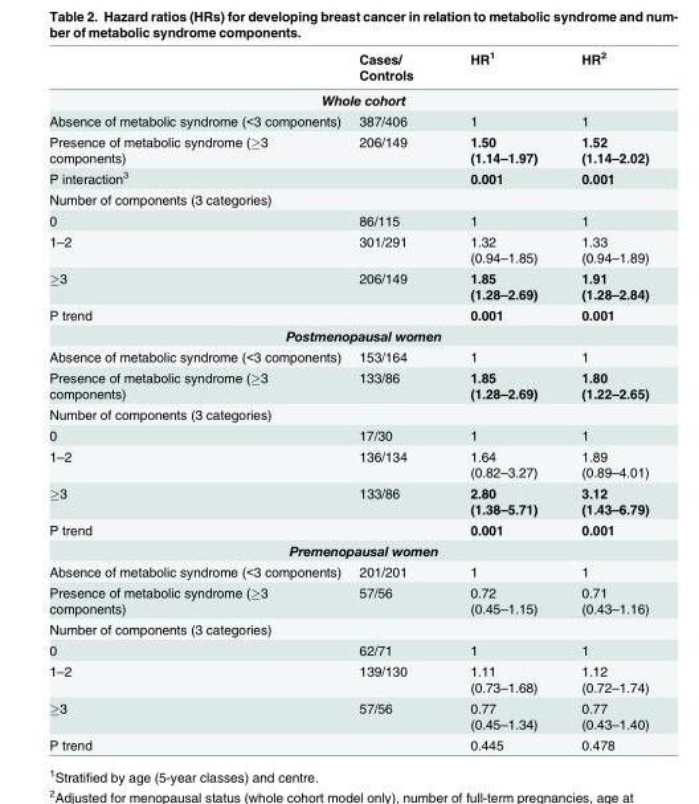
<table><thead><tr><td></td><td>Cases/ Controls</td><td>HR<sup>1</sup></td><td>HR<sup>2</sup></td></tr></thead><tbody><tr><td colspan="4">Whole cohort</td></tr><tr><td>Absence of metabolic syndrome (&lt;3 components)</td><td>387/406</td><td>1</td><td>1</td></tr><tr><td>Presence of metabolic syndrome (≥3 components)</td><td>206/149</td><td>1.50 (1.14–1.97)</td><td>1.52 (1.14–2.02)</td></tr><tr><td>P interaction<sup>3</sup></td><td></td><td>0.001</td><td>0.001</td></tr><tr><td colspan="4">Number of components (3 categories)</td></tr><tr><td>0</td><td>86/115</td><td>1</td><td>1</td></tr><tr><td>1–2</td><td>301/291</td><td>1.32 (0.94–1.85)</td><td>1.33 (0.94–1.89)</td></tr><tr><td>≥3</td><td>206/149</td><td>1.85 (1.28–2.69)</td><td>1.91 (1.28–2.84)</td></tr><tr><td>P trend</td><td></td><td>0.001</td><td>0.001</td></tr><tr><td colspan="4">Postmenopausal women</td></tr><tr><td>Absence of metabolic syndrome (&lt;3 components)</td><td>153/164</td><td>1</td><td>1</td></tr><tr><td>Presence of metabolic syndrome (≥3 components)</td><td>133/86</td><td>1.85 (1.28–2.69)</td><td>1.80 (1.22–2.65)</td></tr><tr><td colspan="4">Number of components (3 categories)</td></tr><tr><td>0</td><td>17/30</td><td>1</td><td>1</td></tr><tr><td>1–2</td><td>136/134</td><td>1.64 (0.82–3.27)</td><td>1.89 (0.89–4.01)</td></tr><tr><td>≥3</td><td>133/86</td><td>2.80 (1.38–5.71)</td><td>3.12 (1.43–6.79)</td></tr><tr><td>P trend</td><td></td><td>0.001</td><td>0.001</td></tr><tr><td colspan="4">Premenopausal women</td></tr><tr><td>Absence of metabolic syndrome (&lt;3 components)</td><td>201/201</td><td>1</td><td>1</td></tr><tr><td>Presence of metabolic syndrome (≥3 components)</td><td>57/56</td><td>0.72 (0.45–1.15)</td><td>0.71 (0.43–1.16)</td></tr><tr><td colspan="4">Number of components (3 categories)</td></tr><tr><td>0</td><td>62/71</td><td>1</td><td>1</td></tr><tr><td>1–2</td><td>139/130</td><td>1.11 (0.73–1.68)</td><td>1.12 (0.72–1.74)</td></tr><tr><td>≥3</td><td>57/56</td><td>0.77 (0.45–1.34)</td><td>0.77 (0.43–1.40)</td></tr><tr><td>P trend</td><td></td><td>0.445</td><td>0.478</td></tr></tbody></table>